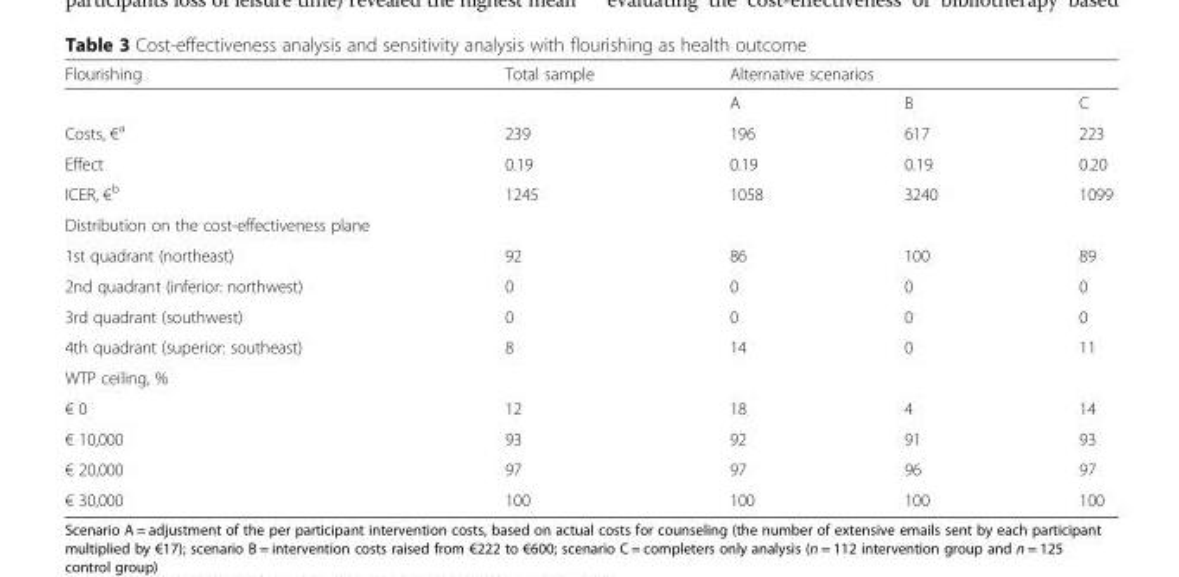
<table><thead><tr><td rowspan="2">Flourishing</td><td rowspan="2">Total sample</td><td colspan="3">Alternative scenarios</td></tr><tr><td>A</td><td>B</td><td>C</td></tr></thead><tbody><tr><td>Costs, €<sup>a</sup></td><td>239</td><td>196</td><td>617</td><td>223</td></tr><tr><td>Effect</td><td>0.19</td><td>0.19</td><td>0.19</td><td>0.20</td></tr><tr><td>ICER, €<sup>b</sup></td><td>1245</td><td>1058</td><td>3240</td><td>1099</td></tr><tr><td colspan="5">Distribution on the cost-effectiveness plane</td></tr><tr><td>1st quadrant (northeast)</td><td>92</td><td>86</td><td>100</td><td>89</td></tr><tr><td>2nd quadrant (inferior: northwest)</td><td>0</td><td>0</td><td>0</td><td>0</td></tr><tr><td>3rd quadrant (southwest)</td><td>0</td><td>0</td><td>0</td><td>0</td></tr><tr><td>4th quadrant (superior: southeast)</td><td>8</td><td>14</td><td>0</td><td>11</td></tr><tr><td colspan="5">WTP ceiling, %</td></tr><tr><td>€ 0</td><td>12</td><td>18</td><td>4</td><td>14</td></tr><tr><td>€ 10,000</td><td>93</td><td>92</td><td>91</td><td>93</td></tr><tr><td>€ 20,000</td><td>97</td><td>97</td><td>96</td><td>97</td></tr><tr><td>€ 30,000</td><td>100</td><td>100</td><td>100</td><td>100</td></tr></tbody></table>